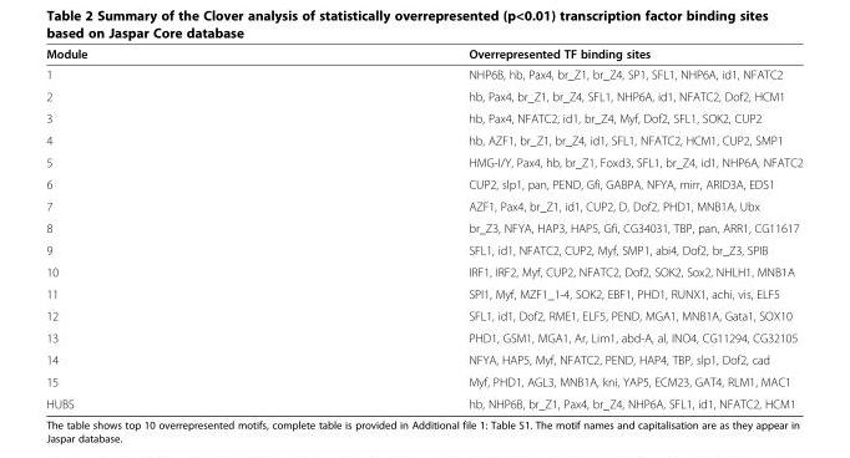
<table><thead><tr><td>Module</td><td>Overrepresented TF binding sites</td></tr></thead><tbody><tr><td>1</td><td>NHP6B, hb, Pax4, br_Z1, br_Z4, SP1, SFL1, NHP6A, id1, NFATC2</td></tr><tr><td>2</td><td>hb, Pax4, br_Z1, br_Z4, SFL1, NHP6A, id1, NFATC2, Dof2, HCM1</td></tr><tr><td>3</td><td>hb, Pax4, NFATC2, id1, br_Z4, Myf, Dof2, SFL1, SOK2, CUP2</td></tr><tr><td>4</td><td>hb, AZF1, br_Z1, br_Z4, id1, SFL1, NFATC2, HCM1, CUP2, SMP1</td></tr><tr><td>5</td><td>HMG-I/Y, Pax4, hb, br_Z1, Foxd3, SFL1, br_Z4, id1, NHP6A, NFATC2</td></tr><tr><td>6</td><td>CUP2, slp1, pan, PEND, Gfi, GABPA, NFYA, mirr, ARID3A, EDS1</td></tr><tr><td>7</td><td>AZF1, Pax4, br_Z1, id1, CUP2, D, Dof2, PHD1, MNB1A, Ubx</td></tr><tr><td>8</td><td>br_Z3, NFYA, HAP3, HAP5, Gfi, CG34031, TBP, pan, ARR1, CG11617</td></tr><tr><td>9</td><td>SFL1, id1, NFATC2, CUP2, Myf, SMP1, abi4, Dof2, br_Z3, SPIB</td></tr><tr><td>10</td><td>IRF1, IRF2, Myf, CUP2, NFATC2, Dof2, SOK2, Sox2, NHLH1, MNB1A</td></tr><tr><td>11</td><td>SPI1, Myf, MZF1_1-4, SOK2, EBF1, PHD1, RUNX1, achi, vis, ELF5</td></tr><tr><td>12</td><td>SFL1, id1, Dof2, RME1, ELF5, PEND, MGA1, MNB1A, Gata1, SOX10</td></tr><tr><td>13</td><td>PHD1, GSM1, MGA1, Ar, Lim1, abd-A, al, INO4, CG11294, CG32105</td></tr><tr><td>14</td><td>NFYA, HAP5, Myf, NFATC2, PEND, HAP4, TBP, slp1, Dof2, cad</td></tr><tr><td>15</td><td>Myf, PHD1, AGL3, MNB1A, kni, YAP5, ECM23, GAT4, RLM1, MAC1</td></tr><tr><td>HUBS</td><td>hb, NHP6B, br_Z1, Pax4, br_Z4, NHP6A, SFL1, id1, NFATC2, HCM1</td></tr></tbody></table>